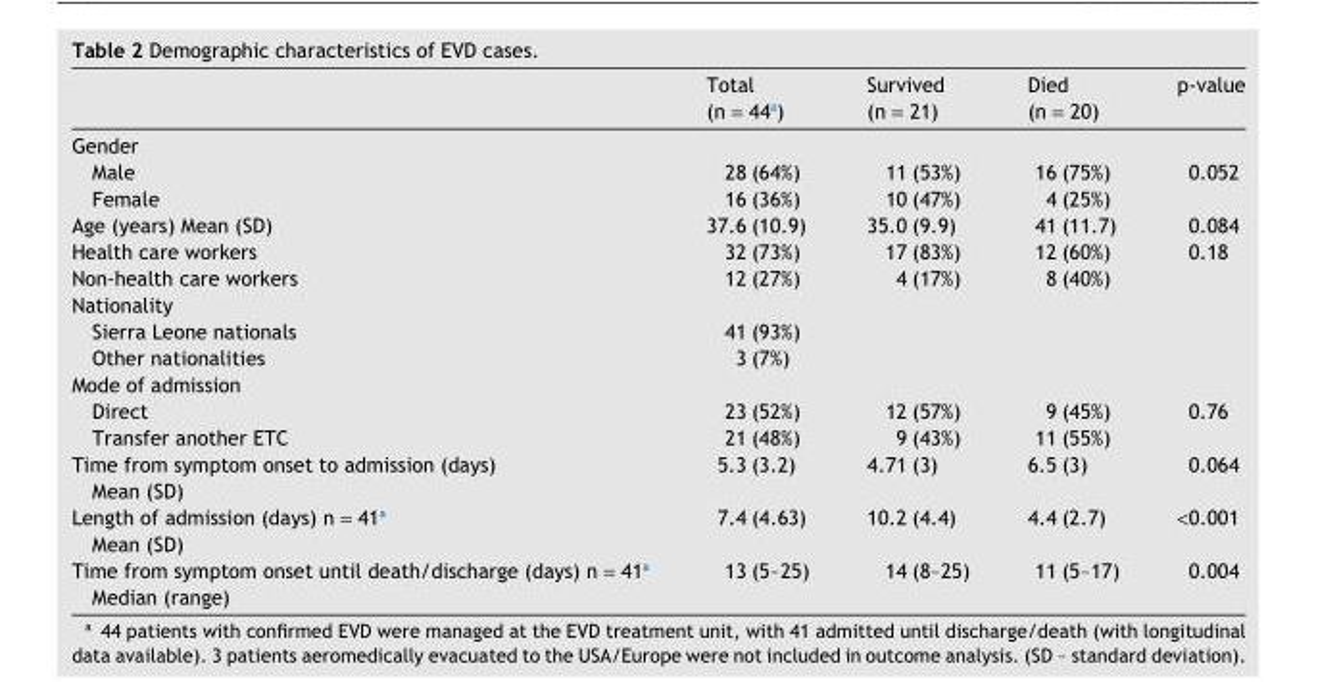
<table><thead><tr><td></td><td>Total (n = 44<sup>a</sup>)</td><td>Survived (n = 21)</td><td>Died (n = 20)</td><td>p-value</td></tr></thead><tbody><tr><td colspan="5">Gender</td></tr><tr><td>Male</td><td>28 (64%)</td><td>11 (53%)</td><td>16 (75%)</td><td>0.052</td></tr><tr><td>Female</td><td>16 (36%)</td><td>10 (47%)</td><td>4 (25%)</td><td></td></tr><tr><td>Age (years) Mean (SD)</td><td>37.6 (10.9)</td><td>35.0 (9.9)</td><td>41 (11.7)</td><td>0.084</td></tr><tr><td>Health care workers</td><td>32 (73%)</td><td>17 (83%)</td><td>12 (60%)</td><td>0.18</td></tr><tr><td>Non-health care workers</td><td>12 (27%)</td><td>4 (17%)</td><td>8 (40%)</td><td></td></tr><tr><td colspan="5">Nationality</td></tr><tr><td>Sierra Leone nationals</td><td>41 (93%)</td><td></td><td></td><td></td></tr><tr><td>Other nationalities</td><td>3 (7%)</td><td></td><td></td><td></td></tr><tr><td colspan="5">Mode of admission</td></tr><tr><td>Direct</td><td>23 (52%)</td><td>12 (57%)</td><td>9 (45%)</td><td>0.76</td></tr><tr><td>Transfer another ETC</td><td>21 (48%)</td><td>9 (43%)</td><td>11 (55%)</td><td></td></tr><tr><td>Time from symptom onset to admission (days) Mean (SD)</td><td>5.3 (3.2)</td><td>4.71 (3)</td><td>6.5 (3)</td><td>0.064</td></tr><tr><td>Length of admission (days) n = 41<sup>a</sup> Mean (SD)</td><td>7.4 (4.63)</td><td>10.2 (4.4)</td><td>4.4 (2.7)</td><td>&lt;0.001</td></tr><tr><td>Time from symptom onset until death/discharge (days) n = 41<sup>a</sup> Median (range)</td><td>13 (5–25)</td><td>14 (8–25)</td><td>11 (5–17)</td><td>0.004</td></tr></tbody></table>